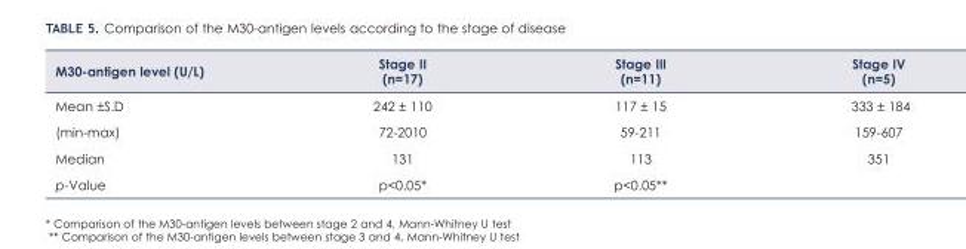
<table><thead><tr><td>M30-antigen level (U/L)</td><td>Stage II (n=17)</td><td>Stage III (n=11)</td><td>Stage IV (n=5)</td></tr></thead><tbody><tr><td>Mean ±S.D</td><td>242 ± 110</td><td>117 ± 15</td><td>333 ± 184</td></tr><tr><td>(min-max)</td><td>72-2010</td><td>59-211</td><td>159-607</td></tr><tr><td>Median</td><td>131</td><td>113</td><td>351</td></tr><tr><td>p-Value</td><td>p&lt;0.05*</td><td>p&lt;0.05**</td><td></td></tr></tbody></table>